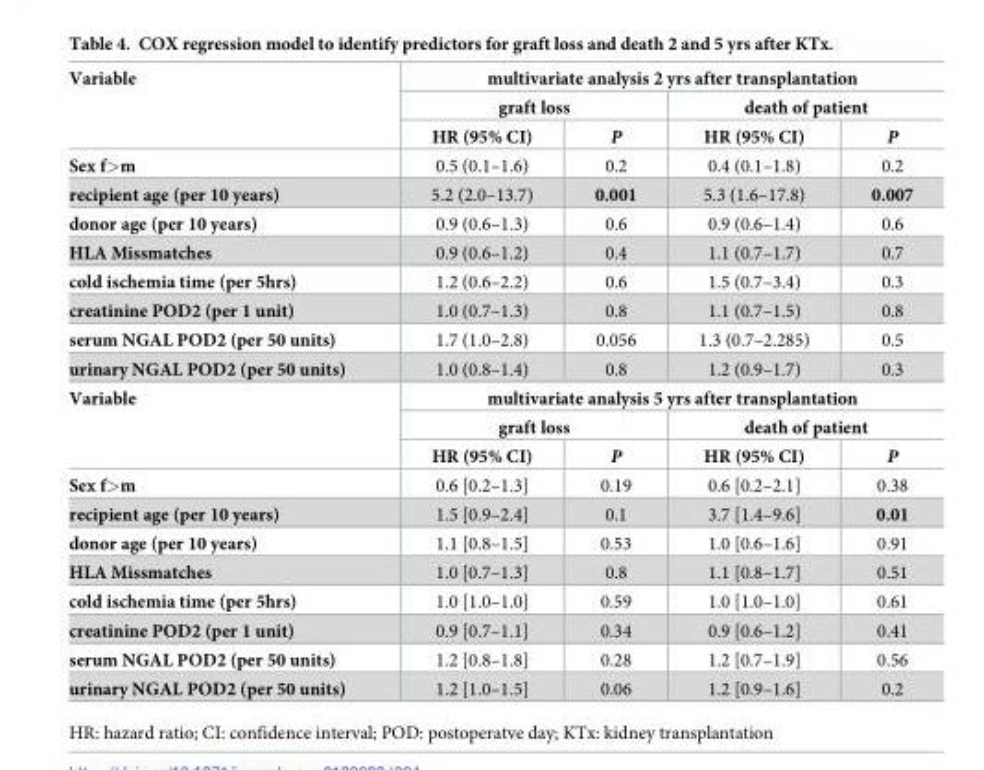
<table><tbody><tr><td rowspan="3">Variable</td><td colspan="4">multivariate analysis 2 yrs after transplantation</td></tr><tr><td colspan="2">graft loss</td><td colspan="2">death of patient</td></tr><tr><td>HR (95% CI)</td><td>P</td><td>HR (95% CI)</td><td>P</td></tr><tr><td>Sex f&gt;m</td><td>0.5 (0.1–1.6)</td><td>0.2</td><td>0.4 (0.1–1.8)</td><td>0.2</td></tr><tr><td>recipient age (per 10 years)</td><td>5.2 (2.0–13.7)</td><td>0.001</td><td>5.3 (1.6–17.8)</td><td>0.007</td></tr><tr><td>donor age (per 10 years)</td><td>0.9 (0.6–1.3)</td><td>0.6</td><td>0.9 (0.6–1.4)</td><td>0.6</td></tr><tr><td>HLA Missmatches</td><td>0.9 (0.6–1.2)</td><td>0.4</td><td>1.1 (0.7–1.7)</td><td>0.7</td></tr><tr><td>cold ischemia time (per 5hrs)</td><td>1.2 (0.6–2.2)</td><td>0.6</td><td>1.5 (0.7–3.4)</td><td>0.3</td></tr><tr><td>creatinine POD2 (per 1 unit)</td><td>1.0 (0.7–1.3)</td><td>0.8</td><td>1.1 (0.7–1.5)</td><td>0.8</td></tr><tr><td>serum NGAL POD2 (per 50 units)</td><td>1.7 (1.0–2.8)</td><td>0.056</td><td>1.3 (0.7–2.285)</td><td>0.5</td></tr><tr><td>urinary NGAL POD2 (per 50 units)</td><td>1.0 (0.8–1.4)</td><td>0.8</td><td>1.2 (0.9–1.7)</td><td>0.3</td></tr><tr><td rowspan="3">Variable</td><td colspan="4">multivariate analysis 5 yrs after transplantation</td></tr><tr><td colspan="2">graft loss</td><td colspan="2">death of patient</td></tr><tr><td>HR (95% CI)</td><td>P</td><td>HR (95% CI)</td><td>P</td></tr><tr><td>Sex f&gt;m</td><td>0.6 [0.2–1.3]</td><td>0.19</td><td>0.6 [0.2–2.1]</td><td>0.38</td></tr><tr><td>recipient age (per 10 years)</td><td>1.5 [0.9–2.4]</td><td>0.1</td><td>3.7 [1.4–9.6]</td><td>0.01</td></tr><tr><td>donor age (per 10 years)</td><td>1.1 [0.8–1.5]</td><td>0.53</td><td>1.0 [0.6–1.6]</td><td>0.91</td></tr><tr><td>HLA Missmatches</td><td>1.0 [0.7–1.3]</td><td>0.8</td><td>1.1 [0.8–1.7]</td><td>0.51</td></tr><tr><td>cold ischemia time (per 5hrs)</td><td>1.0 [1.0–1.0]</td><td>0.59</td><td>1.0 [1.0–1.0]</td><td>0.61</td></tr><tr><td>creatinine POD2 (per 1 unit)</td><td>0.9 [0.7–1.1]</td><td>0.34</td><td>0.9 [0.6–1.2]</td><td>0.41</td></tr><tr><td>serum NGAL POD2 (per 50 units)</td><td>1.2 [0.8–1.8]</td><td>0.28</td><td>1.2 [0.7–1.9]</td><td>0.56</td></tr><tr><td>urinary NGAL POD2 (per 50 units)</td><td>1.2 [1.0–1.5]</td><td>0.06</td><td>1.2 [0.9–1.6]</td><td>0.2</td></tr></tbody></table>